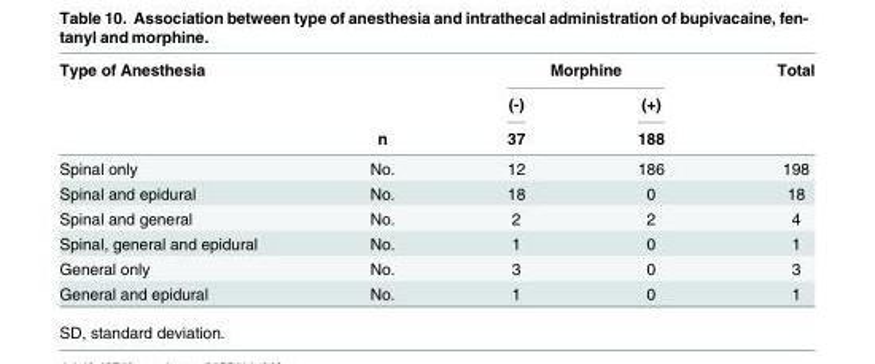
<table><thead><tr><td rowspan="3">Type of Anesthesia</td><td rowspan="3">n</td><td colspan="2">Morphine</td><td rowspan="3">Total</td></tr><tr><td rowspan="2">(-) 37</td><td rowspan="2">(+) 188</td></tr><tr></tr></thead><tbody><tr><td>Spinal only</td><td>No.</td><td>12</td><td>186</td><td>198</td></tr><tr><td>Spinal and epidural</td><td>No.</td><td>18</td><td>0</td><td>18</td></tr><tr><td>Spinal and general</td><td>No.</td><td>2</td><td>2</td><td>4</td></tr><tr><td>Spinal, general and epidural</td><td>No.</td><td>1</td><td>0</td><td>1</td></tr><tr><td>General only</td><td>No.</td><td>3</td><td>0</td><td>3</td></tr><tr><td>General and epidural</td><td>No.</td><td>1</td><td>0</td><td>1</td></tr></tbody></table>